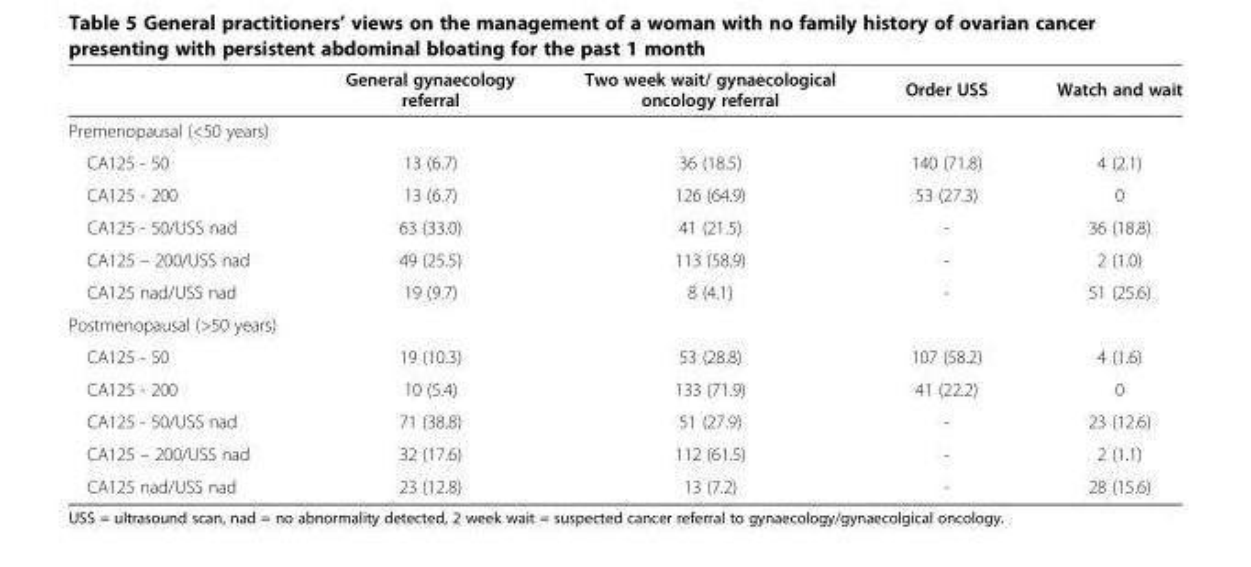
<table><thead><tr><td></td><td>General gynaecology referral</td><td>Two week wait/ gynaecological oncology referral</td><td>Order USS</td><td>Watch and wait</td></tr></thead><tbody><tr><td colspan="5">Premenopausal (&lt;50 years)</td></tr><tr><td>CA125 - 50</td><td>13 (6.7)</td><td>36 (18.5)</td><td>140 (71.8)</td><td>4 (2.1)</td></tr><tr><td>CA125 - 200</td><td>13 (6.7)</td><td>126 (64.9)</td><td>53 (27.3)</td><td>0</td></tr><tr><td>CA125 - 50/USS nad</td><td>63 (33.0)</td><td>41 (21.5)</td><td>-</td><td>36 (18.8)</td></tr><tr><td>CA125 – 200/USS nad</td><td>49 (25.5)</td><td>113 (58.9)</td><td>-</td><td>2 (1.0)</td></tr><tr><td>CA125 nad/USS nad</td><td>19 (9.7)</td><td>8 (4.1)</td><td>-</td><td>51 (25.6)</td></tr><tr><td colspan="5">Postmenopausal (&gt;50 years)</td></tr><tr><td>CA125 - 50</td><td>19 (10.3)</td><td>53 (28.8)</td><td>107 (58.2)</td><td>4 (1.6)</td></tr><tr><td>CA125 - 200</td><td>10 (5.4)</td><td>133 (71.9)</td><td>41 (22.2)</td><td>0</td></tr><tr><td>CA125 - 50/USS nad</td><td>71 (38.8)</td><td>51 (27.9)</td><td>-</td><td>23 (12.6)</td></tr><tr><td>CA125 – 200/USS nad</td><td>32 (17.6)</td><td>112 (61.5)</td><td>-</td><td>2 (1.1)</td></tr><tr><td>CA125 nad/USS nad</td><td>23 (12.8)</td><td>13 (7.2)</td><td>-</td><td>28 (15.6)</td></tr></tbody></table>